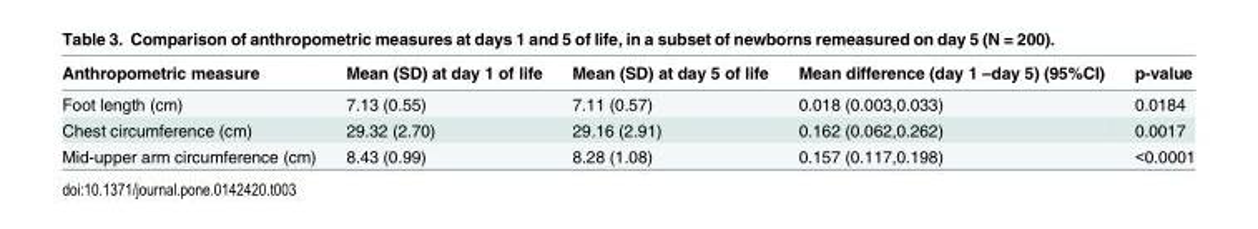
<table><thead><tr><td>Anthropometric measure</td><td>Mean (SD) at day 1 of life</td><td>Mean (SD) at day 5 of life</td><td>Mean difference (day 1 –day 5) (95%CI)</td><td>p-value</td></tr></thead><tbody><tr><td>Foot length (cm)</td><td>7.13 (0.55)</td><td>7.11 (0.57)</td><td>0.018 (0.003,0.033)</td><td>0.0184</td></tr><tr><td>Chest circumference (cm)</td><td>29.32 (2.70)</td><td>29.16 (2.91)</td><td>0.162 (0.062,0.262)</td><td>0.0017</td></tr><tr><td>Mid-upper arm circumference (cm)</td><td>8.43 (0.99)</td><td>8.28 (1.08)</td><td>0.157 (0.117,0.198)</td><td>&lt;0.0001</td></tr></tbody></table>